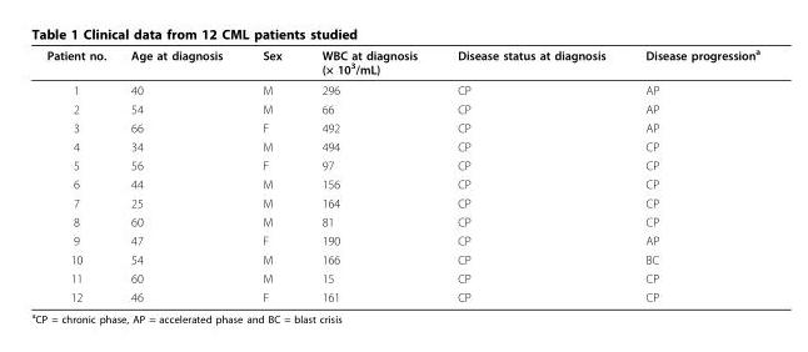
<table><thead><tr><td>Patient no.</td><td>Age at diagnosis</td><td>Sex</td><td>WBC at diagnosis (× 10<sup>3</sup>/mL)</td><td>Disease status at diagnosis</td><td>Disease progression<sup>a</sup></td></tr></thead><tbody><tr><td>1</td><td>40</td><td>M</td><td>296</td><td>CP</td><td>AP</td></tr><tr><td>2</td><td>54</td><td>M</td><td>66</td><td>CP</td><td>AP</td></tr><tr><td>3</td><td>66</td><td>F</td><td>492</td><td>CP</td><td>AP</td></tr><tr><td>4</td><td>34</td><td>M</td><td>494</td><td>CP</td><td>CP</td></tr><tr><td>5</td><td>56</td><td>F</td><td>97</td><td>CP</td><td>CP</td></tr><tr><td>6</td><td>44</td><td>M</td><td>156</td><td>CP</td><td>CP</td></tr><tr><td>7</td><td>25</td><td>M</td><td>164</td><td>CP</td><td>CP</td></tr><tr><td>8</td><td>60</td><td>M</td><td>81</td><td>CP</td><td>CP</td></tr><tr><td>9</td><td>47</td><td>F</td><td>190</td><td>CP</td><td>AP</td></tr><tr><td>10</td><td>54</td><td>M</td><td>166</td><td>CP</td><td>BC</td></tr><tr><td>11</td><td>60</td><td>M</td><td>15</td><td>CP</td><td>CP</td></tr><tr><td>12</td><td>46</td><td>F</td><td>161</td><td>CP</td><td>CP</td></tr></tbody></table>